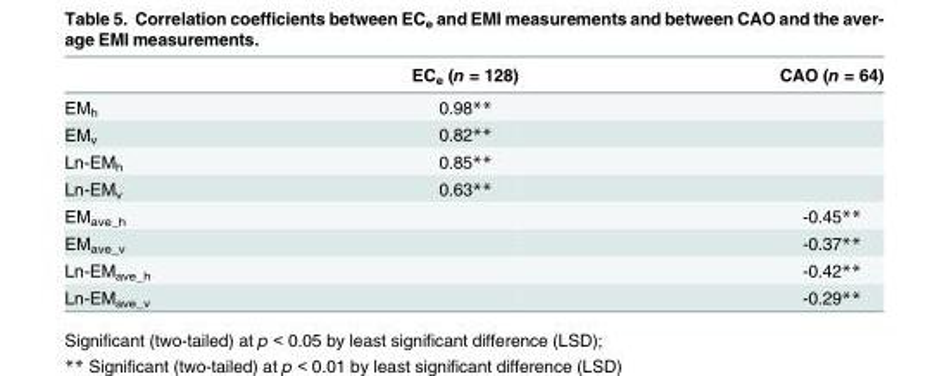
<table><thead><tr><td></td><td>EC<sub>e</sub> (n = 128)</td><td>CAO (n = 64)</td></tr></thead><tbody><tr><td>EM<sub>h</sub></td><td>0.98**</td><td></td></tr><tr><td>EM<sub>v</sub></td><td>0.82**</td><td></td></tr><tr><td>Ln-EM<sub>h</sub></td><td>0.85**</td><td></td></tr><tr><td>Ln-EM<sub>v</sub></td><td>0.63**</td><td></td></tr><tr><td>EM<sub>ave_h</sub></td><td></td><td>-0.45**</td></tr><tr><td>EM<sub>ave_v</sub></td><td></td><td>-0.37**</td></tr><tr><td>Ln-EM<sub>ave_h</sub></td><td></td><td>-0.42**</td></tr><tr><td>Ln-EM<sub>ave_v</sub></td><td></td><td>-0.29**</td></tr></tbody></table>